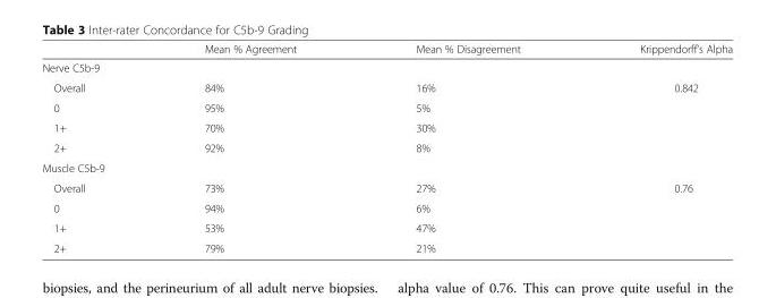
<table><thead><tr><td></td><td>Mean % Agreement</td><td>Mean % Disagreement</td><td>Krippendorff’s Alpha</td></tr></thead><tbody><tr><td colspan="4">Nerve C5b-9</td></tr><tr><td>Overall</td><td>84%</td><td>16%</td><td>0.842</td></tr><tr><td>0</td><td>95%</td><td>5%</td><td></td></tr><tr><td>1+</td><td>70%</td><td>30%</td><td></td></tr><tr><td>2+</td><td>92%</td><td>8%</td><td></td></tr><tr><td colspan="4">Muscle C5b-9</td></tr><tr><td>Overall</td><td>73%</td><td>27%</td><td>0.76</td></tr><tr><td>0</td><td>94%</td><td>6%</td><td></td></tr><tr><td>1+</td><td>53%</td><td>47%</td><td></td></tr><tr><td>2+</td><td>79%</td><td>21%</td><td></td></tr></tbody></table>